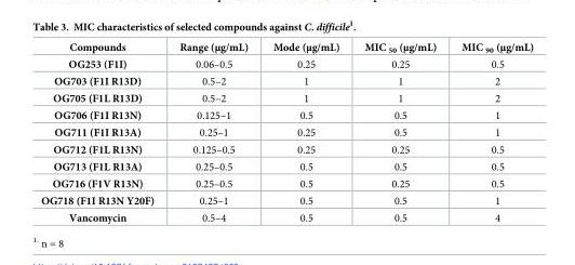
<table><thead><tr><td>Compounds</td><td>Range (μg/mL)</td><td>Mode (μg/mL)</td><td>MIC <sub>50</sub> (μg/mL)</td><td>MIC <sub>90</sub> (μg/mL)</td></tr></thead><tbody><tr><td>OG253 (F1I)</td><td>0.06–0.5</td><td>0.25</td><td>0.25</td><td>0.5</td></tr><tr><td>OG703 (F1I R13D)</td><td>0.5–2</td><td>1</td><td>1</td><td>2</td></tr><tr><td>OG705 (F1L R13D)</td><td>0.5–2</td><td>1</td><td>1</td><td>2</td></tr><tr><td>OG706 (F1I R13N)</td><td>0.125–1</td><td>0.5</td><td>0.5</td><td>1</td></tr><tr><td>OG711 (F1I R13A)</td><td>0.25–1</td><td>0.25</td><td>0.5</td><td>1</td></tr><tr><td>OG712 (F1L R13N)</td><td>0.125–0.5</td><td>0.25</td><td>0.25</td><td>0.5</td></tr><tr><td>OG713 (F1L R13A)</td><td>0.25–0.5</td><td>0.5</td><td>0.5</td><td>0.5</td></tr><tr><td>OG716 (F1V R13N)</td><td>0.25–0.5</td><td>0.5</td><td>0.25</td><td>0.5</td></tr><tr><td>OG718 (F1I R13N Y20F)</td><td>0.25–1</td><td>0.5</td><td>0.5</td><td>1</td></tr><tr><td>Vancomycin</td><td>0.5–4</td><td>0.5</td><td>0.5</td><td>4</td></tr></tbody></table>